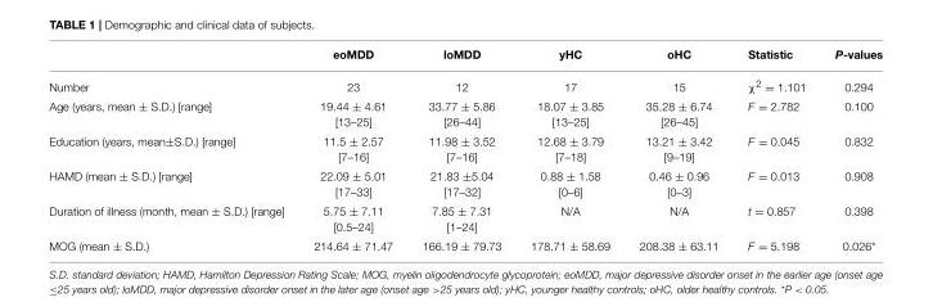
<table><thead><tr><td></td><td>eoMDD</td><td>loMDD</td><td>yHC</td><td>oHC</td><td>Statistic</td><td>P-values</td></tr></thead><tbody><tr><td>Number</td><td>23</td><td>12</td><td>17</td><td>15</td><td>χ<sup>2</sup> = 1.101</td><td>0.294</td></tr><tr><td>Age (years, mean ± S.D.) [range]</td><td>19.44 ± 4.61 [13–25]</td><td>33.77 ± 5.86 [26–44]</td><td>18.07 ± 3.85 [13–25]</td><td>35.28 ± 6.74 [26–45]</td><td>F = 2.782</td><td>0.100</td></tr><tr><td>Education (years, mean±S.D.) [range]</td><td>11.5 ± 2.57 [7–16]</td><td>11.98 ± 3.52 [7–16]</td><td>12.68 ± 3.79 [7–18]</td><td>13.21 ± 3.42 [9–19]</td><td>F = 0.045</td><td>0.832</td></tr><tr><td>HAMD (mean ± S.D.) [range]</td><td>22.09 ± 5.01 [17–33]</td><td>21.83 ±5.04 [17–32]</td><td>0.88 ± 1.58 [0–6]</td><td>0.46 ± 0.96 [0–3]</td><td>F = 0.013</td><td>0.908</td></tr><tr><td>Duration of illness (month, mean ± S.D.) [range]</td><td>5.75 ± 7.11 [0.5–24]</td><td>7.85 ± 7.31 [1–24]</td><td>N/A</td><td>N/A</td><td>t = 0.857</td><td>0.398</td></tr><tr><td>MOG (mean ± S.D.)</td><td>214.64 ± 71.47</td><td>166.19 ± 79.73</td><td>178.71 ± 58.69</td><td>208.38 ± 63.11</td><td>F = 5.198</td><td>0.026*</td></tr></tbody></table>